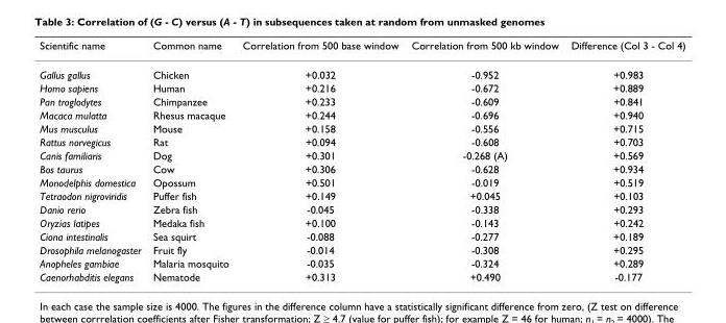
<table><thead><tr><td>Scientific name</td><td>Common name</td><td>Correlation from 500 base window</td><td>Correlation from 500 kb window</td><td>Difference (Col 3 - Col 4)</td></tr></thead><tbody><tr><td>Gallus gallus</td><td>Chicken</td><td>+0.032</td><td>-0.952</td><td>+0.983</td></tr><tr><td>Homo sapiens</td><td>Human</td><td>+0.216</td><td>-0.672</td><td>+0.889</td></tr><tr><td>Pan troglodytes</td><td>Chimpanzee</td><td>+0.233</td><td>-0.609</td><td>+0.841</td></tr><tr><td>Macaca mulatta</td><td>Rhesus macaque</td><td>+0.244</td><td>-0.696</td><td>+0.940</td></tr><tr><td>Mus musculus</td><td>Mouse</td><td>+0.158</td><td>-0.556</td><td>+0.715</td></tr><tr><td>Rattus norvegicus</td><td>Rat</td><td>+0.094</td><td>-0.608</td><td>+0.703</td></tr><tr><td>Canis familiaris</td><td>Dog</td><td>+0.301</td><td>-0.268 (A)</td><td>+0.569</td></tr><tr><td>Bos taurus</td><td>Cow</td><td>+0.306</td><td>-0.628</td><td>+0.934</td></tr><tr><td>Monodelphis domestica</td><td>Opossum</td><td>+0.501</td><td>-0.019</td><td>+0.519</td></tr><tr><td>Tetraodon nigroviridis</td><td>Puffer fish</td><td>+0.149</td><td>+0.045</td><td>+0.103</td></tr><tr><td>Danio rerio</td><td>Zebra fish</td><td>-0.045</td><td>-0.338</td><td>+0.293</td></tr><tr><td>Oryzias latipes</td><td>Medaka fish</td><td>+0.100</td><td>-0.143</td><td>+0.242</td></tr><tr><td>Ciona intestinalis</td><td>Sea squirt</td><td>-0.088</td><td>-0.277</td><td>+0.189</td></tr><tr><td>Drosophila melanogaster</td><td>Fruit fly</td><td>-0.014</td><td>-0.308</td><td>+0.295</td></tr><tr><td>Anopheles gambiae</td><td>Malaria mosquito</td><td>-0.035</td><td>-0.324</td><td>+0.289</td></tr><tr><td>Caenorhabditis elegans</td><td>Nematode</td><td>+0.313</td><td>+0.490</td><td>-0.177</td></tr></tbody></table>